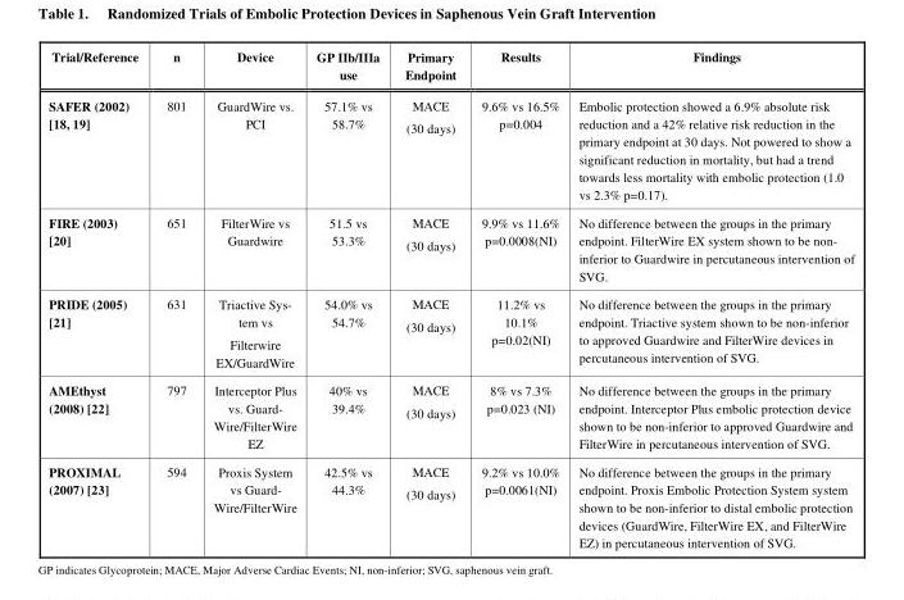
<table><thead><tr><td>Trial/Reference</td><td>n</td><td>Device</td><td>GP IIb/IIIa use</td><td>Primary Endpoint</td><td>Results</td><td>Findings</td></tr></thead><tbody><tr><td>SAFER (2002) [18, 19]</td><td>801</td><td>GuardWire vs. PCI</td><td>57.1% vs 58.7%</td><td>MACE (30 days)</td><td>9.6% vs 16.5% p=0.004</td><td>Embolic protection showed a 6.9% absolute risk reduction and a 42% relative risk reduction in the primary endpoint at 30 days. Not powered to show a significant reduction in mortality, but had a trend towards less mortality with embolic protection (1.0 vs 2.3% p=0.17).</td></tr><tr><td>FIRE (2003) [20]</td><td>651</td><td>FilterWire vs Guardwire</td><td>51.5 vs 53.3%</td><td>MACE (30 days)</td><td>9.9% vs 11.6% p=0.0008(NI)</td><td>No difference between the groups in the primary endpoint. FilterWire EX system shown to be non- inferior to Guardwire in percutaneous intervention of SVG.</td></tr><tr><td>PRIDE (2005) [21]</td><td>631</td><td>Triactive Sys- tem vs Filterwire EX/GuardWire</td><td>54.0% vs 54.7%</td><td>MACE (30 days)</td><td>11.2% vs 10.1% p=0.02(NI)</td><td>No difference between the groups in the primary endpoint. Triactive system shown to be non-inferior to approved Guardwire and FilterWire devices in percutaneous intervention of SVG.</td></tr><tr><td>AMEthyst (2008) [22]</td><td>797</td><td>Interceptor Plus vs. Guard- Wire/FilterWire EZ</td><td>40% vs 39.4%</td><td>MACE (30 days)</td><td>8% vs 7.3% p=0.023 (NI)</td><td>No difference between the groups in the primary endpoint. Interceptor Plus embolic protection device shown to be non-inferior to approved Guardwire and FilterWire in percutaneous intervention of SVG.</td></tr><tr><td>PROXIMAL (2007) [23]</td><td>594</td><td>Proxis System vs Guard- Wire/FilterWire</td><td>42.5% vs 44.3%</td><td>MACE (30 days)</td><td>9.2% vs 10.0% p=0.0061(NI)</td><td>No difference between the groups in the primary endpoint. Proxis Embolic Protection System system shown to be non-inferior to distal embolic protection devices (GuardWire, FilterWire EX, and FilterWire EZ) in percutaneous intervention of SVG.</td></tr></tbody></table>